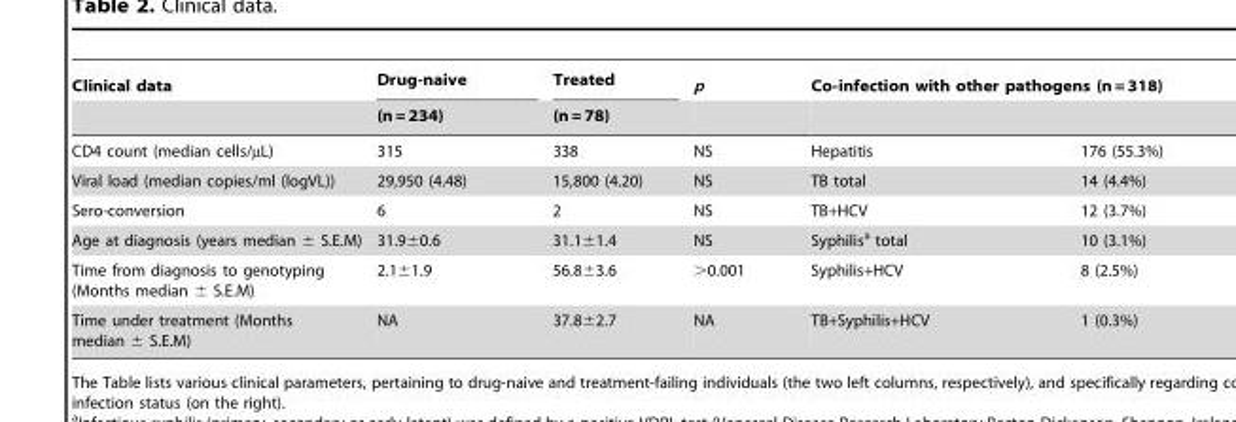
<table><thead><tr><td rowspan="2">Clinical data</td><td rowspan="2">Drug-naive (n = 234)</td><td rowspan="2">Treated (n = 78)</td><td rowspan="2">p</td><td colspan="2">Co-infection with other pathogens (n = 318)</td></tr><tr><td></td><td></td></tr></thead><tbody><tr><td>CD4 count (median cells/µL)</td><td>315</td><td>338</td><td>NS</td><td>Hepatitis</td><td>176 (55.3%)</td></tr><tr><td>Viral load (median copies/ml (logVL))</td><td>29,950 (4.48)</td><td>15,800 (4.20)</td><td>NS</td><td>TB total</td><td>14 (4.4%)</td></tr><tr><td>Sero-conversion</td><td>6</td><td>2</td><td>NS</td><td>TB+HCV</td><td>12 (3.7%)</td></tr><tr><td>Age at diagnosis (years median ± S.E.M)</td><td>31.9±0.6</td><td>31.1±1.4</td><td>NS</td><td>Syphilis<sup>a</sup> total</td><td>10 (3.1%)</td></tr><tr><td>Time from diagnosis to genotyping (Months median ± S.E.M)</td><td>2.1±1.9</td><td>56.8±3.6</td><td>&gt;0.001</td><td>Syphilis+HCV</td><td>8 (2.5%)</td></tr><tr><td>Time under treatment (Months median ± S.E.M)</td><td>NA</td><td>37.8±2.7</td><td>NA</td><td>TB+Syphilis+HCV</td><td>1 (0.3%)</td></tr></tbody></table>